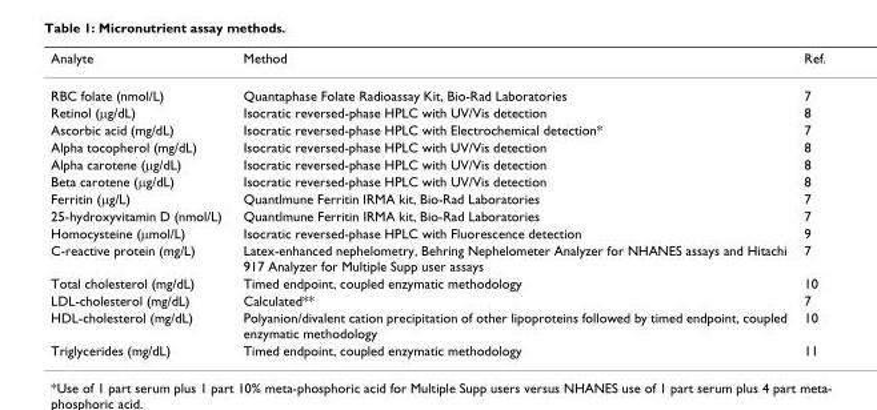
<table><thead><tr><td>Analyte</td><td>Method</td><td>Ref.</td></tr></thead><tbody><tr><td>RBC folate (nmol/L)</td><td>Quantaphase Folate Radioassay Kit, Bio-Rad Laboratories</td><td>7</td></tr><tr><td>Retinol (µg/dL)</td><td>Isocratic reversed-phase HPLC with UV/Vis detection</td><td>8</td></tr><tr><td>Ascorbic acid (mg/dL)</td><td>Isocratic reversed-phase HPLC with Electrochemical detection*</td><td>7</td></tr><tr><td>Alpha tocopherol (mg/dL)</td><td>Isocratic reversed-phase HPLC with UV/Vis detection</td><td>8</td></tr><tr><td>Alpha carotene (µg/dL)</td><td>Isocratic reversed-phase HPLC with UV/Vis detection</td><td>8</td></tr><tr><td>Beta carotene (µg/dL)</td><td>Isocratic reversed-phase HPLC with UV/Vis detection</td><td>8</td></tr><tr><td>Ferritin (µg/L)</td><td>Quantlmune Ferritin IRMA kit, Bio-Rad Laboratories</td><td>7</td></tr><tr><td>25-hydroxyvitamin D (nmol/L)</td><td>Quantlmune Ferritin IRMA kit, Bio-Rad Laboratories</td><td>7</td></tr><tr><td>Homocysteine (µmol/L)</td><td>Isocratic reversed-phase HPLC with Fluorescence detection</td><td>9</td></tr><tr><td>C-reactive protein (mg/L)</td><td>Latex-enhanced nephelometry, Behring Nephelometer Analyzer for NHANES assays and Hitachi 917 Analyzer for Multiple Supp user assays</td><td>7</td></tr><tr><td>Total cholesterol (mg/dL)</td><td>Timed endpoint, coupled enzymatic methodology</td><td>10</td></tr><tr><td>LDL-cholesterol (mg/dL)</td><td>Calculated**</td><td>7</td></tr><tr><td>HDL-cholesterol (mg/dL)</td><td>Polyanion/divalent cation precipitation of other lipoproteins followed by timed endpoint, coupled enzymatic methodology</td><td>10</td></tr><tr><td>Triglycerides (mg/dL)</td><td>Timed endpoint, coupled enzymatic methodology</td><td>11</td></tr></tbody></table>